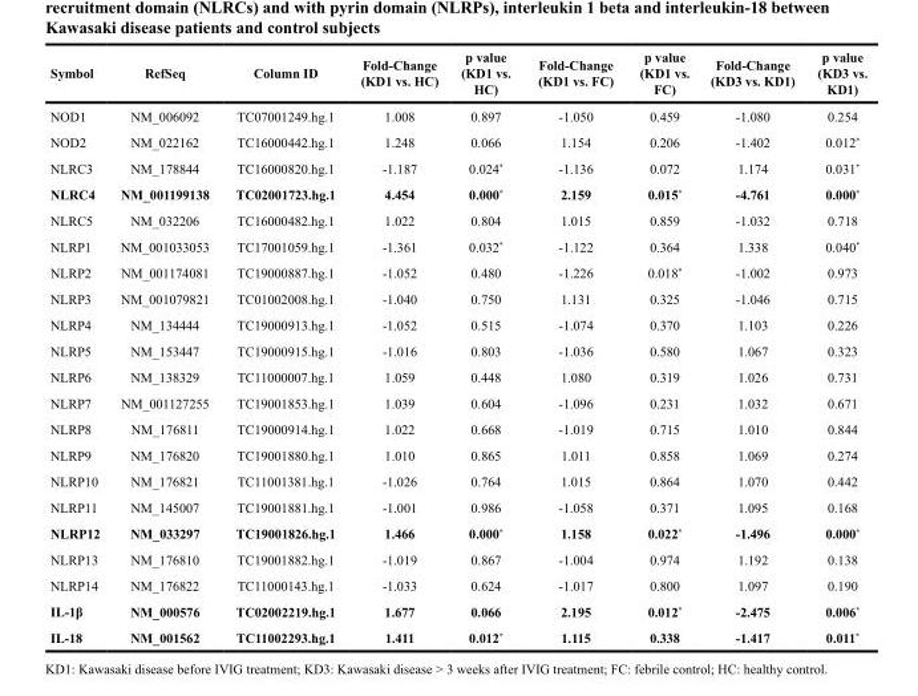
<table><thead><tr><td>Symbol</td><td>RefSeq</td><td>Column ID</td><td>Fold-Change (KD1 vs. HC)</td><td>p value (KD1 vs. HC)</td><td>Fold-Change (KD1 vs. FC)</td><td>p value (KD1 vs. FC)</td><td>Fold-Change (KD3 vs. KD1)</td><td>p value (KD3 vs. KD1)</td></tr></thead><tbody><tr><td>NOD1</td><td>NM_006092</td><td>TC07001249.hg.1</td><td>1.008</td><td>0.897</td><td>-1.050</td><td>0.459</td><td>-1.080</td><td>0.254</td></tr><tr><td>NOD2</td><td>NM_022162</td><td>TC16000442.hg.1</td><td>1.248</td><td>0.066</td><td>1.154</td><td>0.206</td><td>-1.402</td><td>0.012*</td></tr><tr><td>NLRC3</td><td>NM_178844</td><td>TC16000820.hg.1</td><td>-1.187</td><td>0.024*</td><td>-1.136</td><td>0.072</td><td>1.174</td><td>0.031*</td></tr><tr><td>NLRC4</td><td>NM_001199138</td><td>TC02001723.hg.1</td><td>4.454</td><td>0.000*</td><td>2.159</td><td>0.015*</td><td>-4.761</td><td>0.000*</td></tr><tr><td>NLRC5</td><td>NM_032206</td><td>TC16000482.hg.1</td><td>1.022</td><td>0.804</td><td>1.015</td><td>0.859</td><td>-1.032</td><td>0.718</td></tr><tr><td>NLRP1</td><td>NM_001033053</td><td>TC17001059.hg.1</td><td>-1.361</td><td>0.032*</td><td>-1.122</td><td>0.364</td><td>1.338</td><td>0.040*</td></tr><tr><td>NLRP2</td><td>NM_001174081</td><td>TC19000887.hg.1</td><td>-1.052</td><td>0.480</td><td>-1.226</td><td>0.018*</td><td>-1.002</td><td>0.973</td></tr><tr><td>NLRP3</td><td>NM_001079821</td><td>TC01002008.hg.1</td><td>-1.040</td><td>0.750</td><td>1.131</td><td>0.325</td><td>-1.046</td><td>0.715</td></tr><tr><td>NLRP4</td><td>NM_134444</td><td>TC19000913.hg.1</td><td>-1.052</td><td>0.515</td><td>-1.074</td><td>0.370</td><td>1.103</td><td>0.226</td></tr><tr><td>NLRP5</td><td>NM_153447</td><td>TC19000915.hg.1</td><td>-1.016</td><td>0.803</td><td>-1.036</td><td>0.580</td><td>1.067</td><td>0.323</td></tr><tr><td>NLRP6</td><td>NM_138329</td><td>TC11000007.hg.1</td><td>1.059</td><td>0.448</td><td>1.080</td><td>0.319</td><td>1.026</td><td>0.731</td></tr><tr><td>NLRP7</td><td>NM_001127255</td><td>TC19001853.hg.1</td><td>1.039</td><td>0.604</td><td>-1.096</td><td>0.231</td><td>1.032</td><td>0.671</td></tr><tr><td>NLRP8</td><td>NM_176811</td><td>TC19000914.hg.1</td><td>1.022</td><td>0.668</td><td>-1.019</td><td>0.715</td><td>1.010</td><td>0.844</td></tr><tr><td>NLRP9</td><td>NM_176820</td><td>TC19001880.hg.1</td><td>1.010</td><td>0.865</td><td>1.011</td><td>0.858</td><td>1.069</td><td>0.274</td></tr><tr><td>NLRP10</td><td>NM_176821</td><td>TC11001381.hg.1</td><td>-1.026</td><td>0.764</td><td>1.015</td><td>0.864</td><td>1.070</td><td>0.442</td></tr><tr><td>NLRP11</td><td>NM_145007</td><td>TC19001881.hg.1</td><td>-1.001</td><td>0.986</td><td>-1.058</td><td>0.371</td><td>1.095</td><td>0.168</td></tr><tr><td>NLRP12</td><td>NM_033297</td><td>TC19001826.hg.1</td><td>1.466</td><td>0.000*</td><td>1.158</td><td>0.022*</td><td>-1.496</td><td>0.000*</td></tr><tr><td>NLRP13</td><td>NM_176810</td><td>TC19001882.hg.1</td><td>-1.019</td><td>0.867</td><td>-1.004</td><td>0.974</td><td>1.192</td><td>0.138</td></tr><tr><td>NLRP14</td><td>NM_176822</td><td>TC11000143.hg.1</td><td>-1.033</td><td>0.624</td><td>-1.017</td><td>0.800</td><td>1.097</td><td>0.190</td></tr><tr><td>IL-1β</td><td>NM_000576</td><td>TC02002219.hg.1</td><td>1.677</td><td>0.066</td><td>2.195</td><td>0.012*</td><td>-2.475</td><td>0.006*</td></tr><tr><td>IL-18</td><td>NM_001562</td><td>TC11002293.hg.1</td><td>1.411</td><td>0.012*</td><td>1.115</td><td>0.338</td><td>-1.417</td><td>0.011*</td></tr></tbody></table>